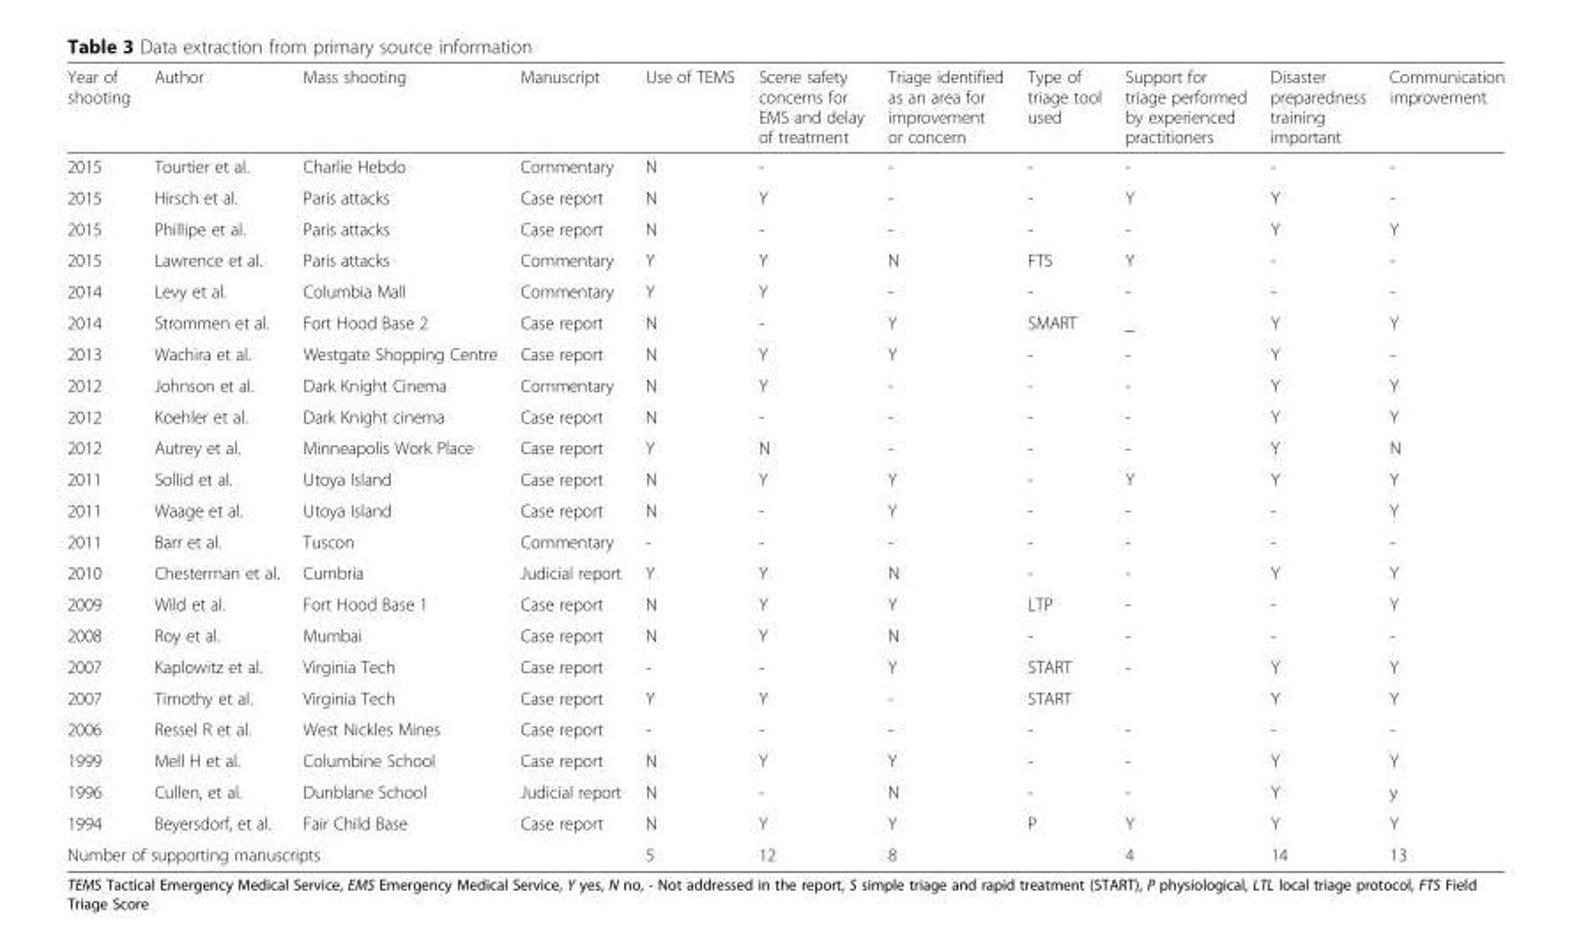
<table><thead><tr><td>Year of shooting</td><td>Author</td><td>Mass shooting</td><td>Manuscript</td><td>Use of TEMS</td><td>Scene safety concerns for EMS and delay of treatment</td><td>Triage identified as an area for improvement or concern</td><td>Type of triage tool used</td><td>Support for triage performed by experienced practitioners</td><td>Disaster preparedness training important</td><td>Communication improvement</td></tr></thead><tbody><tr><td>2015</td><td>Tourtier et al.</td><td>Charlie Hebdo</td><td>Commentary</td><td>N</td><td>-</td><td>-</td><td>-</td><td>-</td><td>-</td><td>-</td></tr><tr><td>2015</td><td>Hirsch et al.</td><td>Paris attacks</td><td>Case report</td><td>N</td><td>Y</td><td>-</td><td>-</td><td>Y</td><td>Y</td><td>-</td></tr><tr><td>2015</td><td>Phillipe et al.</td><td>Paris attacks</td><td>Case report</td><td>N</td><td>-</td><td>-</td><td>-</td><td>-</td><td>Y</td><td>Y</td></tr><tr><td>2015</td><td>Lawrence et al.</td><td>Paris attacks</td><td>Commentary</td><td>Y</td><td>Y</td><td>N</td><td>FTS</td><td>Y</td><td>-</td><td>-</td></tr><tr><td>2014</td><td>Levy et al.</td><td>Columbia Mall</td><td>Commentary</td><td>Y</td><td>Y</td><td>-</td><td>-</td><td>-</td><td>-</td><td>-</td></tr><tr><td>2014</td><td>Strommen et al.</td><td>Fort Hood Base 2</td><td>Case report</td><td>N</td><td>-</td><td>Y</td><td>SMART</td><td>_</td><td>Y</td><td>Y</td></tr><tr><td>2013</td><td>Wachira et al.</td><td>Westgate Shopping Centre</td><td>Case report</td><td>N</td><td>Y</td><td>Y</td><td>-</td><td>-</td><td>Y</td><td>-</td></tr><tr><td>2012</td><td>Johnson et al.</td><td>Dark Knight Cinema</td><td>Commentary</td><td>N</td><td>Y</td><td>-</td><td>-</td><td>-</td><td>Y</td><td>Y</td></tr><tr><td>2012</td><td>Koehler et al.</td><td>Dark Knight cinema</td><td>Case report</td><td>N</td><td>-</td><td>-</td><td>-</td><td>-</td><td>Y</td><td>Y</td></tr><tr><td>2012</td><td>Autrey et al.</td><td>Minneapolis Work Place</td><td>Case report</td><td>Y</td><td>N</td><td>-</td><td>-</td><td>-</td><td>Y</td><td>N</td></tr><tr><td>2011</td><td>Sollid et al.</td><td>Utoya Island</td><td>Case report</td><td>N</td><td>Y</td><td>Y</td><td>-</td><td>Y</td><td>Y</td><td>Y</td></tr><tr><td>2011</td><td>Waage et al.</td><td>Utoya Island</td><td>Case report</td><td>N</td><td>-</td><td>Y</td><td>-</td><td>-</td><td>-</td><td>Y</td></tr><tr><td>2011</td><td>Barr et al.</td><td>Tuscon</td><td>Commentary</td><td>-</td><td>-</td><td>-</td><td>-</td><td>-</td><td>-</td><td>-</td></tr><tr><td>2010</td><td>Chesterman et al.</td><td>Cumbria</td><td>Judicial report</td><td>Y</td><td>Y</td><td>N</td><td>-</td><td>-</td><td>Y</td><td>Y</td></tr><tr><td>2009</td><td>Wild et al.</td><td>Fort Hood Base 1</td><td>Case report</td><td>N</td><td>Y</td><td>Y</td><td>LTP</td><td>-</td><td>-</td><td>Y</td></tr><tr><td>2008</td><td>Roy et al.</td><td>Mumbai</td><td>Case report</td><td>N</td><td>Y</td><td>N</td><td>-</td><td>-</td><td>-</td><td>-</td></tr><tr><td>2007</td><td>Kaplowitz et al.</td><td>Virginia Tech</td><td>Case report</td><td>-</td><td>-</td><td>Y</td><td>START</td><td>-</td><td>Y</td><td>Y</td></tr><tr><td>2007</td><td>Timothy et al.</td><td>Virginia Tech</td><td>Case report</td><td>Y</td><td>Y</td><td>-</td><td>START</td><td></td><td>Y</td><td>Y</td></tr><tr><td>2006</td><td>Ressel R et al.</td><td>West Nickles Mines</td><td>Case report</td><td>-</td><td>-</td><td>-</td><td>-</td><td>-</td><td>-</td><td>-</td></tr><tr><td>1999</td><td>Mell H et al.</td><td>Columbine School</td><td>Case report</td><td>N</td><td>Y</td><td>Y</td><td>-</td><td>-</td><td>Y</td><td>Y</td></tr><tr><td>1996</td><td>Cullen, et al.</td><td>Dunblane School</td><td>Judicial report</td><td>N</td><td>-</td><td>N</td><td>-</td><td>-</td><td>Y</td><td>y</td></tr><tr><td>1994</td><td>Beyersdorf, et al.</td><td>Fair Child Base</td><td>Case report</td><td>N</td><td>Y</td><td>Y</td><td>P</td><td>Y</td><td>Y</td><td>Y</td></tr><tr><td colspan="3">Number of supporting manuscripts</td><td></td><td>5</td><td>12</td><td>8</td><td></td><td>4</td><td>14</td><td>13</td></tr></tbody></table>